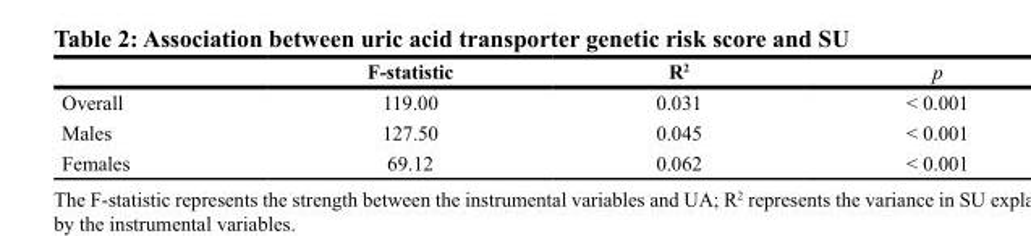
<table><thead><tr><td></td><td>F-statistic</td><td>R<sup>2</sup></td><td>p</td></tr></thead><tbody><tr><td>Overall</td><td>119.00</td><td>0.031</td><td>&lt; 0.001</td></tr><tr><td>Males</td><td>127.50</td><td>0.045</td><td>&lt; 0.001</td></tr><tr><td>Females</td><td>69.12</td><td>0.062</td><td>&lt; 0.001</td></tr></tbody></table>